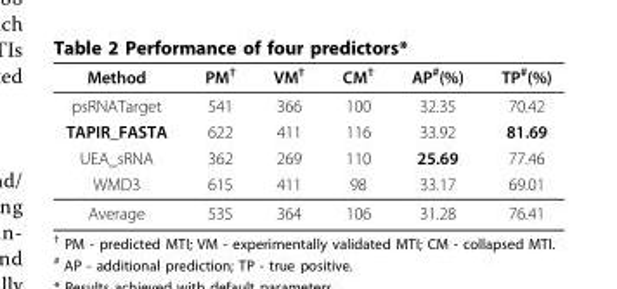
<table><thead><tr><td>Method</td><td>PM<sup>†</sup></td><td>VM<sup>†</sup></td><td>CM<sup>†</sup></td><td>AP<sup>#</sup>(%)</td><td>TP<sup>#</sup>(%)</td></tr></thead><tbody><tr><td>psRNATarget</td><td>541</td><td>366</td><td>100</td><td>32.35</td><td>70.42</td></tr><tr><td>TAPIR_FASTA</td><td>622</td><td>411</td><td>116</td><td>33.92</td><td>81.69</td></tr><tr><td>UEA_sRNA</td><td>362</td><td>269</td><td>110</td><td>25.69</td><td>77.46</td></tr><tr><td>WMD3</td><td>615</td><td>411</td><td>98</td><td>33.17</td><td>69.01</td></tr><tr><td>Average</td><td>535</td><td>364</td><td>106</td><td>31.28</td><td>76.41</td></tr></tbody></table>